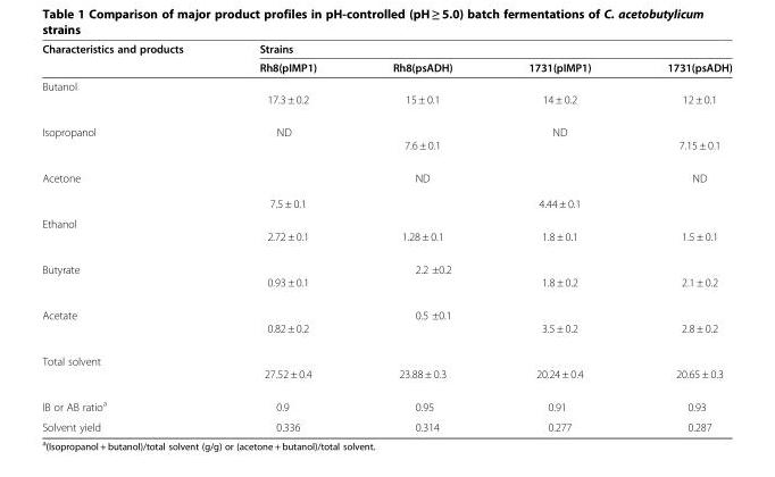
<table><thead><tr><td rowspan="2">Characteristics and products</td><td rowspan="2">Strains Rh8(pIMP1)</td><td rowspan="2">Rh8(psADH)</td><td rowspan="2">1731(pIMP1)</td><td rowspan="2">1731(psADH)</td></tr><tr></tr></thead><tbody><tr><td>Butanol</td><td>17.3 ± 0.2</td><td>15 ± 0.1</td><td>14 ± 0.2</td><td>12 ± 0.1</td></tr><tr><td>Isopropanol</td><td>ND</td><td>7.6 ± 0.1</td><td>ND</td><td>7.15 ± 0.1</td></tr><tr><td>Acetone</td><td>7.5 ± 0.1</td><td>ND</td><td>4.44 ± 0.1</td><td>ND</td></tr><tr><td>Ethanol</td><td>2.72 ± 0.1</td><td>1.28 ± 0.1</td><td>1.8 ± 0.1</td><td>1.5 ± 0.1</td></tr><tr><td>Butyrate</td><td>0.93 ± 0.1</td><td>2.2 ±0.2</td><td>1.8 ± 0.2</td><td>2.1 ± 0.2</td></tr><tr><td>Acetate</td><td>0.82 ± 0.2</td><td>0.5 ±0.1</td><td>3.5 ± 0.2</td><td>2.8 ± 0.2</td></tr><tr><td>Total solvent</td><td>27.52 ± 0.4</td><td>23.88 ± 0.3</td><td>20.24 ± 0.4</td><td>20.65 ± 0.3</td></tr><tr><td>IB or AB ratio<sup>a</sup></td><td>0.9</td><td>0.95</td><td>0.91</td><td>0.93</td></tr><tr><td>Solvent yield</td><td>0.336</td><td>0.314</td><td>0.277</td><td>0.287</td></tr></tbody></table>